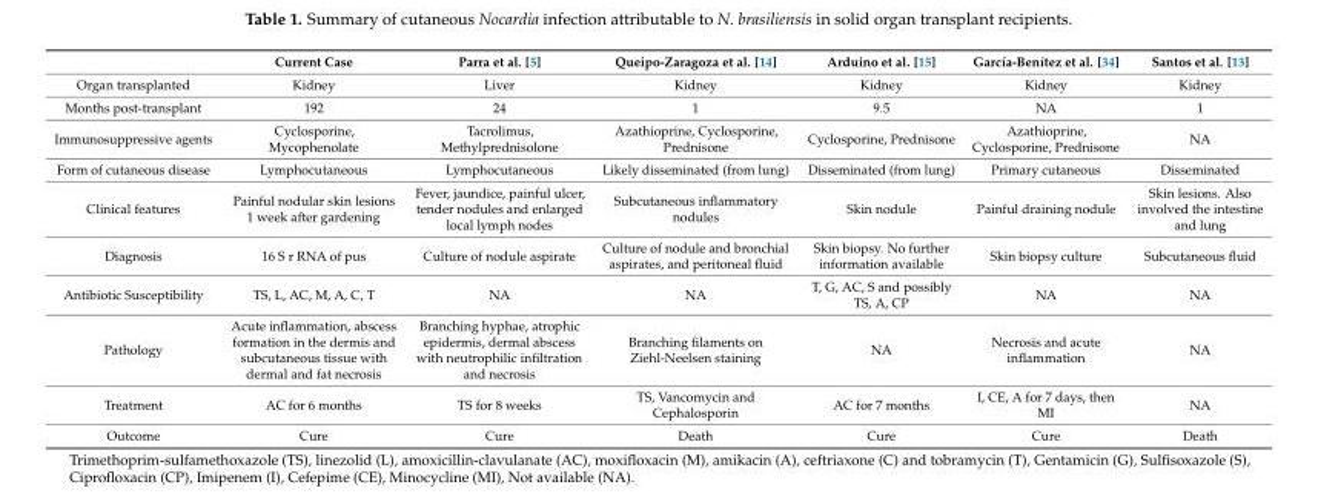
<table><thead><tr><td></td><td>Current Case</td><td>Parra et al. [5]</td><td>Queipo-Zaragoza et al. [14]</td><td>Arduino et al. [15]</td><td>García-Benítez et al. [34]</td><td>Santos et al. [13]</td></tr></thead><tbody><tr><td>Organ transplanted</td><td>Kidney</td><td>Liver</td><td>Kidney</td><td>Kidney</td><td>Kidney</td><td>Kidney</td></tr><tr><td>Months post-transplant</td><td>192</td><td>24</td><td>1</td><td>9.5</td><td>NA</td><td>1</td></tr><tr><td>Immunosuppressive agents</td><td>Cyclosporine, Mycophenolate</td><td>Tacrolimus, Methylprednisolone</td><td>Azathioprine, Cyclosporine, Prednisone</td><td>Cyclosporine, Prednisone</td><td>Azathioprine, Cyclosporine, Prednisone</td><td>NA</td></tr><tr><td>Form of cutaneous disease</td><td>Lymphocutaneous</td><td>Lymphocutaneous</td><td>Likely disseminated (from lung)</td><td>Disseminated (from lung)</td><td>Primary cutaneous</td><td>Disseminated</td></tr><tr><td>Clinical features</td><td>Painful nodular skin lesions 1 week after gardening</td><td>Fever, jaundice, painful ulcer, tender nodules and enlarged local lymph nodes</td><td>Subcutaneous inflammatory nodules</td><td>Skin nodule</td><td>Painful draining nodule</td><td>Skin lesions. Also involved the intestine and lung</td></tr><tr><td>Diagnosis</td><td>16 S r RNA of pus</td><td>Culture of nodule aspirate</td><td>Culture of nodule and bronchial aspirates, and peritoneal fluid</td><td>Skin biopsy. No further information available</td><td>Skin biopsy culture</td><td>Subcutaneous fluid</td></tr><tr><td>Antibiotic Susceptibility</td><td>TS, L, AC, M, A, C, T</td><td>NA</td><td>NA</td><td>T, G, AC, S and possibly TS, A, CP</td><td>NA</td><td>NA</td></tr><tr><td>Pathology</td><td>Acute inflammation, abscess formation in the dermis and subcutaneous tissue with dermal and fat necrosis</td><td>Branching hyphae, atrophic epidermis, dermal abscess with neutrophilic infiltration and necrosis</td><td>Branching filaments on Ziehl-Neelsen staining</td><td>NA</td><td>Necrosis and acute inflammation</td><td>NA</td></tr><tr><td>Treatment</td><td>AC for 6 months</td><td>TS for 8 weeks</td><td>TS, Vancomycin and Cephalosporin</td><td>AC for 7 months</td><td>I, CE, A for 7 days, then MI</td><td>NA</td></tr><tr><td>Outcome</td><td>Cure</td><td>Cure</td><td>Death</td><td>Cure</td><td>Cure</td><td>Death</td></tr></tbody></table>